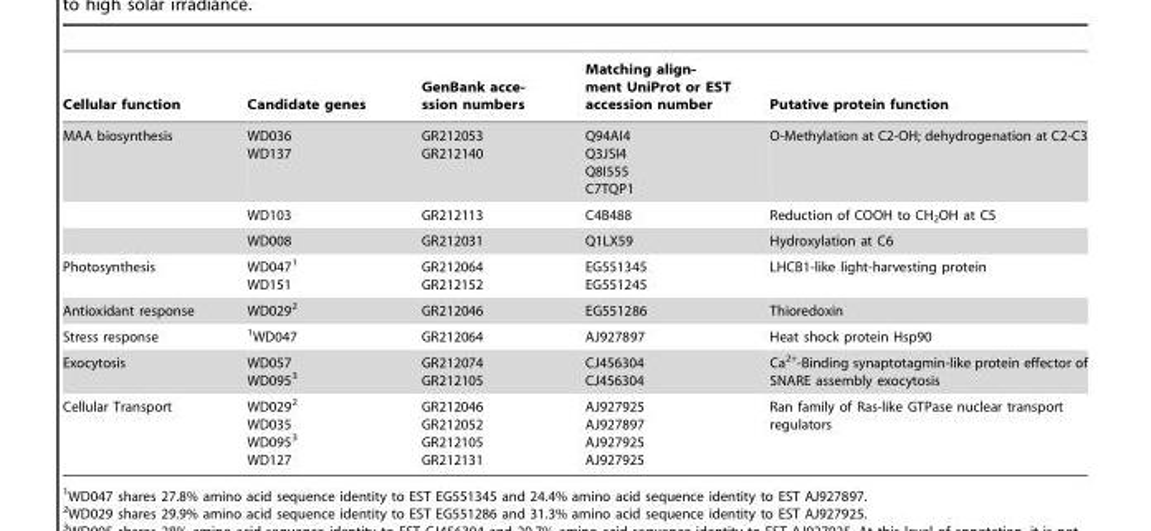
<table><thead><tr><td>Cellular function</td><td>Candidate genes</td><td>GenBank acce- ssion numbers</td><td>Matching align- ment UniProt or EST accession number</td><td>Putative protein function</td></tr></thead><tbody><tr><td rowspan="3">MAA biosynthesis</td><td>WD036 WD137</td><td>GR212053 GR212140</td><td>Q94AI4 Q3JSI4 Q8I555 C7TQP1</td><td>O-Methylation at C2-OH; dehydrogenation at C2-C3</td></tr><tr><td>WD103</td><td>GR212113</td><td>C4B488</td><td>Reduction of COOH to CH<sub>2</sub>OH at C5</td></tr><tr><td>WD008</td><td>GR212031</td><td>Q1LX59</td><td>Hydroxylation at C6</td></tr><tr><td>Photosynthesis</td><td>WD047<sup>1</sup> WD151</td><td>GR212064 GR212152</td><td>EG551345 EG551245</td><td>LHCB1-like light-harvesting protein</td></tr><tr><td>Antioxidant response</td><td>WD029<sup>2</sup></td><td>GR212046</td><td>EG551286</td><td>Thioredoxin</td></tr><tr><td>Stress response</td><td>1WD047</td><td>GR212064</td><td>AJ927897</td><td>Heat shock protein Hsp90</td></tr><tr><td>Exocytosis</td><td>WD057 WD095<sup>3</sup></td><td>GR212074 GR212105</td><td>CJ456304 CJ456304</td><td>Ca<sup>2+</sup>-Binding synaptotagmin-like protein effector of SNARE assembly exocytosis</td></tr><tr><td>Cellular Transport</td><td>WD029<sup>2</sup> WD035 WD095<sup>3</sup> WD127</td><td>GR212046 GR212052 GR212105 GR212131</td><td>AJ927925 AJ927897 AJ927925 AJ927925</td><td>Ran family of Ras-like GTPase nuclear transport regulators</td></tr></tbody></table>